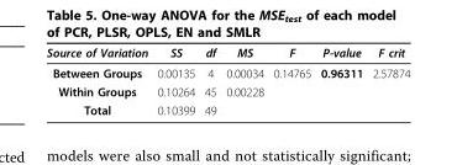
<table><thead><tr><td>Source of Variation</td><td>SS</td><td>df</td><td>MS</td><td>F</td><td>P-value</td><td>F crit</td></tr></thead><tbody><tr><td>Between Groups</td><td>0.00135</td><td>4</td><td>0.00034</td><td>0.14765</td><td>0.96311</td><td>2.57874</td></tr><tr><td>Within Groups</td><td>0.10264</td><td>45</td><td>0.00228</td><td></td><td></td><td></td></tr><tr><td>Total</td><td>0.10399</td><td>49</td><td></td><td></td><td></td><td></td></tr></tbody></table>